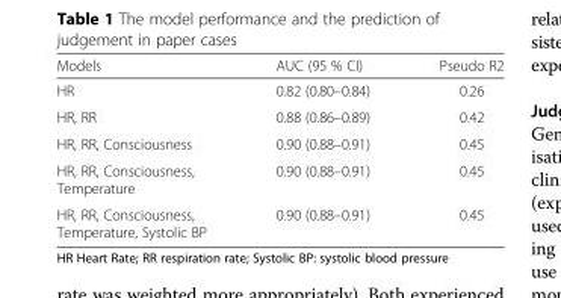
<table><thead><tr><td>Models</td><td>AUC (95 % CI)</td><td>Pseudo R2</td></tr></thead><tbody><tr><td>HR</td><td>0.82 (0.80–0.84)</td><td>0.26</td></tr><tr><td>HR, RR</td><td>0.88 (0.86–0.89)</td><td>0.42</td></tr><tr><td>HR, RR, Consciousness</td><td>0.90 (0.88–0.91)</td><td>0.45</td></tr><tr><td>HR, RR, Consciousness, Temperature</td><td>0.90 (0.88–0.91)</td><td>0.45</td></tr><tr><td>HR, RR, Consciousness, Temperature, Systolic BP</td><td>0.90 (0.88–0.91)</td><td>0.45</td></tr></tbody></table>